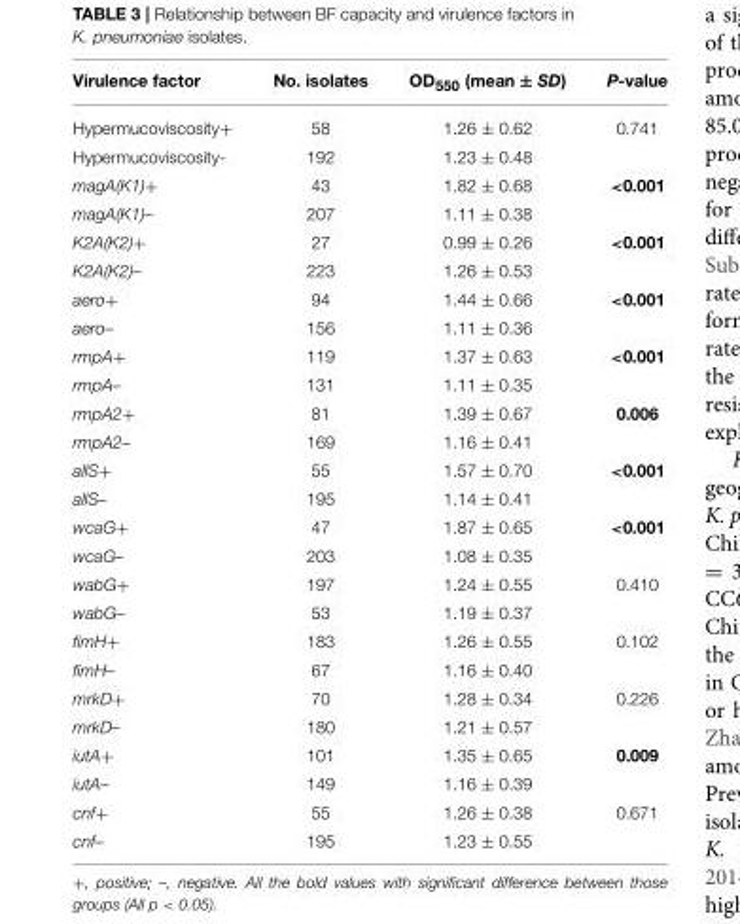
<table><thead><tr><td>Virulence factor</td><td>No. isolates</td><td>OD<sub>550</sub> (mean ± SD)</td><td>P-value</td></tr></thead><tbody><tr><td>Hypermucoviscosity+</td><td>58</td><td>1.26 ± 0.62</td><td>0.741</td></tr><tr><td>Hypermucoviscosity-</td><td>192</td><td>1.23 ± 0.48</td><td></td></tr><tr><td>magA(K1)+</td><td>43</td><td>1.82 ± 0.68</td><td>&lt;0.001</td></tr><tr><td>magA(K1)–</td><td>207</td><td>1.11 ± 0.38</td><td></td></tr><tr><td>K2A(K2)+</td><td>27</td><td>0.99 ± 0.26</td><td>&lt;0.001</td></tr><tr><td>K2A(K2)–</td><td>223</td><td>1.26 ± 0.53</td><td></td></tr><tr><td>aero+</td><td>94</td><td>1.44 ± 0.66</td><td>&lt;0.001</td></tr><tr><td>aero–</td><td>156</td><td>1.11 ± 0.36</td><td></td></tr><tr><td>rmpA+</td><td>119</td><td>1.37 ± 0.63</td><td>&lt;0.001</td></tr><tr><td>rmpA–</td><td>131</td><td>1.11 ± 0.35</td><td></td></tr><tr><td>rmpA2+</td><td>81</td><td>1.39 ± 0.67</td><td>0.006</td></tr><tr><td>rmpA2–</td><td>169</td><td>1.16 ± 0.41</td><td></td></tr><tr><td>allS+</td><td>55</td><td>1.57 ± 0.70</td><td>&lt;0.001</td></tr><tr><td>allS–</td><td>195</td><td>1.14 ± 0.41</td><td></td></tr><tr><td>wcaG+</td><td>47</td><td>1.87 ± 0.65</td><td>&lt;0.001</td></tr><tr><td>wcaG–</td><td>203</td><td>1.08 ± 0.35</td><td></td></tr><tr><td>wabG+</td><td>197</td><td>1.24 ± 0.55</td><td>0.410</td></tr><tr><td>wabG–</td><td>53</td><td>1.19 ± 0.37</td><td></td></tr><tr><td>fimH+</td><td>183</td><td>1.26 ± 0.55</td><td>0.102</td></tr><tr><td>fimH–</td><td>67</td><td>1.16 ± 0.40</td><td></td></tr><tr><td>mrkD+</td><td>70</td><td>1.28 ± 0.34</td><td>0.226</td></tr><tr><td>mrkD–</td><td>180</td><td>1.21 ± 0.57</td><td></td></tr><tr><td>iutA+</td><td>101</td><td>1.35 ± 0.65</td><td>0.009</td></tr><tr><td>iutA–</td><td>149</td><td>1.16 ± 0.39</td><td></td></tr><tr><td>cnf+</td><td>55</td><td>1.26 ± 0.38</td><td>0.671</td></tr><tr><td>cnf–</td><td>195</td><td>1.23 ± 0.55</td><td></td></tr></tbody></table>